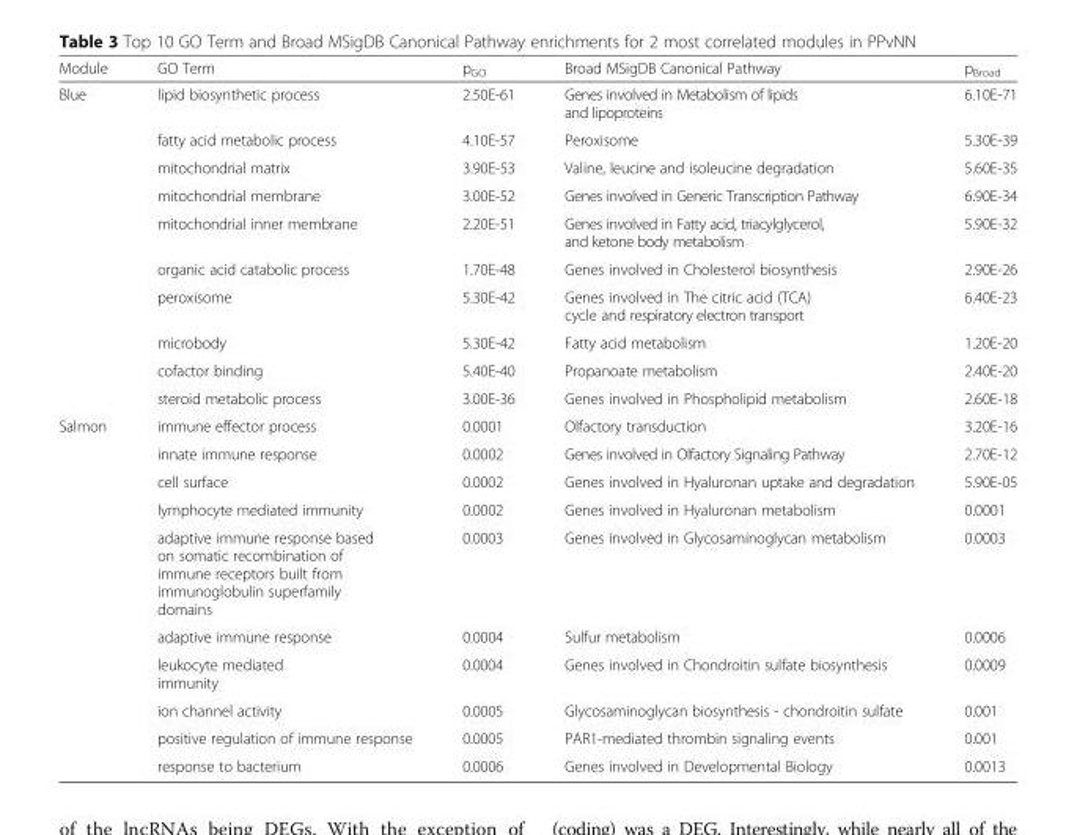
<table><thead><tr><td>Module</td><td>GO Term</td><td>p<sub>GO</sub></td><td>Broad MSigDB Canonical Pathway</td><td>p<sub>Broad</sub></td></tr></thead><tbody><tr><td rowspan="10">Blue</td><td>lipid biosynthetic process</td><td>2.50E-61</td><td>Genes involved in Metabolism of lipids and lipoproteins</td><td>6.10E-71</td></tr><tr><td>fatty acid metabolic process</td><td>4.10E-57</td><td>Peroxisome</td><td>5.30E-39</td></tr><tr><td>mitochondrial matrix</td><td>3.90E-53</td><td>Valine, leucine and isoleucine degradation</td><td>5.60E-35</td></tr><tr><td>mitochondrial membrane</td><td>3.00E-52</td><td>Genes involved in Generic Transcription Pathway</td><td>6.90E-34</td></tr><tr><td>mitochondrial inner membrane</td><td>2.20E-51</td><td>Genes involved in Fatty acid, triacylglycerol, and ketone body metabolism</td><td>5.90E-32</td></tr><tr><td>organic acid catabolic process</td><td>1.70E-48</td><td>Genes involved in Cholesterol biosynthesis</td><td>2.90E-26</td></tr><tr><td>peroxisome</td><td>5.30E-42</td><td>Genes involved in The citric acid (TCA) cycle and respiratory electron transport</td><td>6.40E-23</td></tr><tr><td>microbody</td><td>5.30E-42</td><td>Fatty acid metabolism</td><td>1.20E-20</td></tr><tr><td>cofactor binding</td><td>5.40E-40</td><td>Propanoate metabolism</td><td>2.40E-20</td></tr><tr><td>steroid metabolic process</td><td>3.00E-36</td><td>Genes involved in Phospholipid metabolism</td><td>2.60E-18</td></tr><tr><td rowspan="10">Salmon</td><td>immune effector process</td><td>0.0001</td><td>Olfactory transduction</td><td>3.20E-16</td></tr><tr><td>innate immune response</td><td>0.0002</td><td>Genes involved in Olfactory Signaling Pathway</td><td>2.70E-12</td></tr><tr><td>cell surface</td><td>0.0002</td><td>Genes involved in Hyaluronan uptake and degradation</td><td>5.90E-05</td></tr><tr><td>lymphocyte mediated immunity</td><td>0.0002</td><td>Genes involved in Hyaluronan metabolism</td><td>0.0001</td></tr><tr><td>adaptive immune response based on somatic recombination of immune receptors built from immunoglobulin superfamily domains</td><td>0.0003</td><td>Genes involved in Glycosaminoglycan metabolism</td><td>0.0003</td></tr><tr><td>adaptive immune response</td><td>0.0004</td><td>Sulfur metabolism</td><td>0.0006</td></tr><tr><td>leukocyte mediated immunity</td><td>0.0004</td><td>Genes involved in Chondroitin sulfate biosynthesis</td><td>0.0009</td></tr><tr><td>ion channel activity</td><td>0.0005</td><td>Glycosaminoglycan biosynthesis - chondroitin sulfate</td><td>0.001</td></tr><tr><td>positive regulation of immune response</td><td>0.0005</td><td>PAR1-mediated thrombin signaling events</td><td>0.001</td></tr><tr><td>response to bacterium</td><td>0.0006</td><td>Genes involved in Developmental Biology</td><td>0.0013</td></tr></tbody></table>